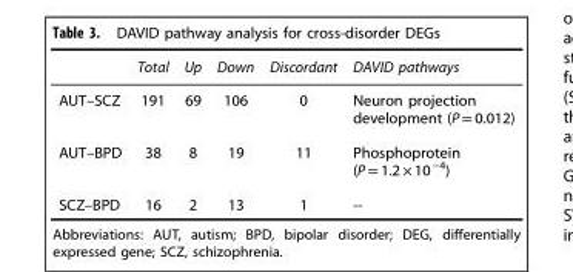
<table><thead><tr><td></td><td>Total</td><td>Up</td><td>Down</td><td>Discordant</td><td>DAVID pathways</td></tr></thead><tbody><tr><td>AUT–SCZ</td><td>191</td><td>69</td><td>106</td><td>0</td><td>Neuron projection development (P = 0.012)</td></tr><tr><td>AUT–BPD</td><td>38</td><td>8</td><td>19</td><td>11</td><td>Phosphoprotein (P = 1.2 × 10 <sup>−4</sup>)</td></tr><tr><td>SCZ–BPD</td><td>16</td><td>2</td><td>13</td><td>1</td><td>--</td></tr></tbody></table>